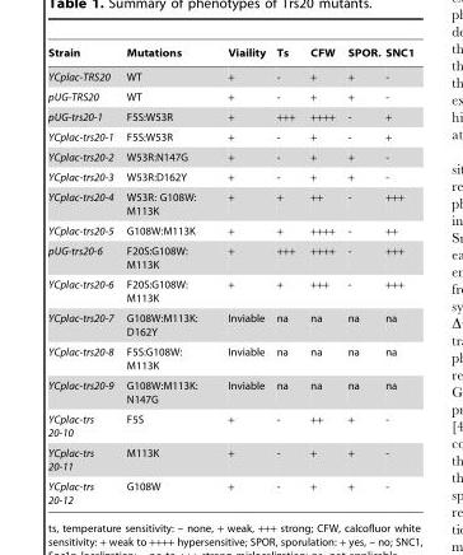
<table><thead><tr><td>Strain</td><td>Mutations</td><td>Viaility</td><td>Ts</td><td>CFW</td><td>SPOR.</td><td>SNC1</td></tr></thead><tbody><tr><td>YCplac-TRS20</td><td>WT</td><td>+</td><td>-</td><td>+</td><td>+</td><td>-</td></tr><tr><td>pUG-TRS20</td><td>WT</td><td>+</td><td>-</td><td>+</td><td>+</td><td>-</td></tr><tr><td>pUG-trs20-1</td><td>F5S:W53R</td><td>+</td><td>+++</td><td>++++</td><td>-</td><td>+</td></tr><tr><td>YCplac-trs20-1</td><td>F5S:W53R</td><td>+</td><td>-</td><td>+</td><td>-</td><td>+</td></tr><tr><td>YCplac-trs20-2</td><td>W53R:N147G</td><td>+</td><td>-</td><td>+</td><td>+</td><td>-</td></tr><tr><td>YCplac-trs20-3</td><td>W53R:D162Y</td><td>+</td><td>-</td><td>+</td><td>+</td><td>-</td></tr><tr><td>YCplac-trs20-4</td><td>W53R: G108W: M113K</td><td>+</td><td>+</td><td>++</td><td>-</td><td>+++</td></tr><tr><td>YCplac-trs20-5</td><td>G108W:M113K</td><td>+</td><td>+</td><td>++++</td><td>-</td><td>++</td></tr><tr><td>pUG-trs20-6</td><td>F20S:G108W: M113K</td><td>+</td><td>+++</td><td>++++</td><td>-</td><td>+++</td></tr><tr><td>YCplac-trs20-6</td><td>F20S:G108W: M113K</td><td>+</td><td>+</td><td>+++</td><td>-</td><td>+++</td></tr><tr><td>YCplac-trs20-7</td><td>G108W:M113K: D162Y</td><td>Inviable</td><td>na</td><td>na</td><td>na</td><td>na</td></tr><tr><td>YCplac-trs20-8</td><td>F5S:G108W: M113K</td><td>Inviable</td><td>na</td><td>na</td><td>na</td><td>na</td></tr><tr><td>YCplac-trs20-9</td><td>G108W:M113K: N147G</td><td>Inviable</td><td>na</td><td>na</td><td>na</td><td>na</td></tr><tr><td>YCplac-trs 20-10</td><td>F5S</td><td>+</td><td>-</td><td>++</td><td>+</td><td>-</td></tr><tr><td>YCplac-trs 20-11</td><td>M113K</td><td>+</td><td>-</td><td>+</td><td>+</td><td>-</td></tr><tr><td>YCplac-trs 20-12</td><td>G108W</td><td>+</td><td>-</td><td>+</td><td>+</td><td>-</td></tr></tbody></table>